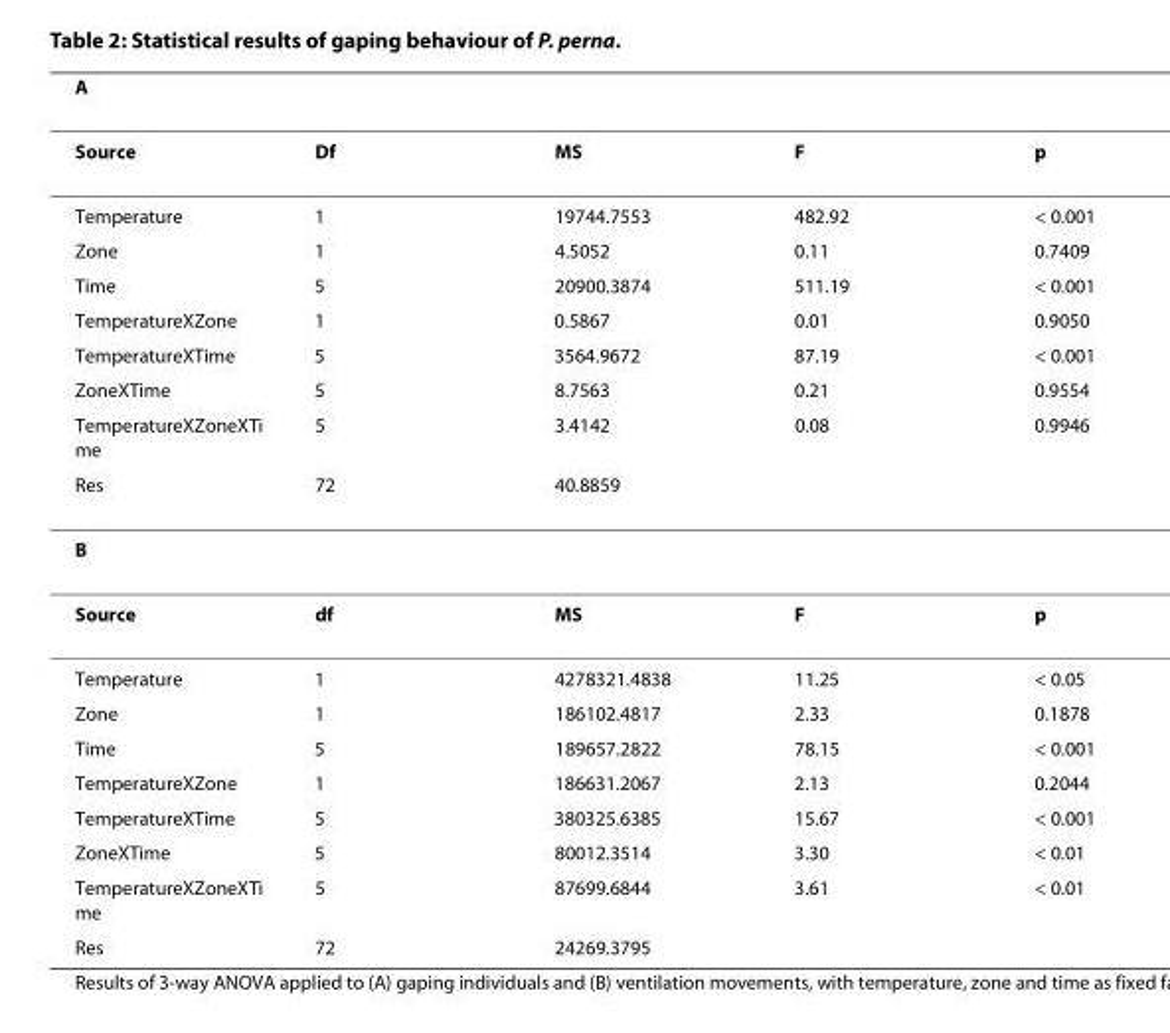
<table><thead><tr><td colspan="5">A</td></tr><tr><td>Source</td><td>Df</td><td>MS</td><td>F</td><td>p</td></tr></thead><tbody><tr><td>Temperature</td><td>1</td><td>19744.7553</td><td>482.92</td><td>&lt; 0.001</td></tr><tr><td>Zone</td><td>1</td><td>4.5052</td><td>0.11</td><td>0.7409</td></tr><tr><td>Time</td><td>5</td><td>20900.3874</td><td>511.19</td><td>&lt; 0.001</td></tr><tr><td>TemperatureXZone</td><td>1</td><td>0.5867</td><td>0.01</td><td>0.9050</td></tr><tr><td>TemperatureXTime</td><td>5</td><td>3564.9672</td><td>87.19</td><td>&lt; 0.001</td></tr><tr><td>ZoneXTime</td><td>5</td><td>8.7563</td><td>0.21</td><td>0.9554</td></tr><tr><td>TemperatureXZoneXTi me</td><td>5</td><td>3.4142</td><td>0.08</td><td>0.9946</td></tr><tr><td>Res</td><td>72</td><td>40.8859</td><td></td><td></td></tr><tr><td colspan="5">B</td></tr><tr><td>Source</td><td>df</td><td>MS</td><td>F</td><td>p</td></tr><tr><td>Temperature</td><td>1</td><td>4278321.4838</td><td>11.25</td><td>&lt; 0.05</td></tr><tr><td>Zone</td><td>1</td><td>186102.4817</td><td>2.33</td><td>0.1878</td></tr><tr><td>Time</td><td>5</td><td>189657.2822</td><td>78.15</td><td>&lt; 0.001</td></tr><tr><td>TemperatureXZone</td><td>1</td><td>186631.2067</td><td>2.13</td><td>0.2044</td></tr><tr><td>TemperatureXTime</td><td>5</td><td>380325.6385</td><td>15.67</td><td>&lt; 0.001</td></tr><tr><td>ZoneXTime</td><td>5</td><td>80012.3514</td><td>3.30</td><td>&lt; 0.01</td></tr><tr><td>TemperatureXZoneXTi me</td><td>5</td><td>87699.6844</td><td>3.61</td><td>&lt; 0.01</td></tr><tr><td>Res</td><td>72</td><td>24269.3795</td><td></td><td></td></tr></tbody></table>